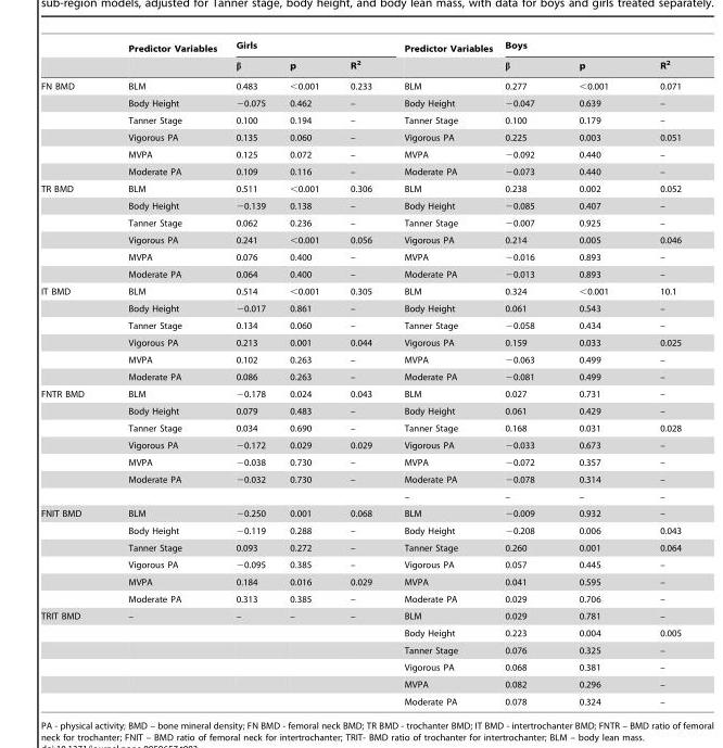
<table><thead><tr><td rowspan="2"></td><td rowspan="2">Predictor Variables</td><td colspan="3">Girls</td><td rowspan="2">Predictor Variables</td><td colspan="3">Boys</td></tr><tr><td>β</td><td>p</td><td>R<sup>2</sup></td><td>β</td><td>p</td><td>R<sup>2</sup></td></tr></thead><tbody><tr><td rowspan="6">FN BMD</td><td>BLM</td><td>0.483</td><td>&lt;0.001</td><td>0.233</td><td>BLM</td><td>0.277</td><td>&lt;0.001</td><td>0.071</td></tr><tr><td>Body Height</td><td>−0.075</td><td>0.462</td><td>–</td><td>Body Height</td><td>−0.047</td><td>0.639</td><td>–</td></tr><tr><td>Tanner Stage</td><td>0.100</td><td>0.194</td><td>–</td><td>Tanner Stage</td><td>0.100</td><td>0.179</td><td>–</td></tr><tr><td>Vigorous PA</td><td>0.135</td><td>0.060</td><td>–</td><td>Vigorous PA</td><td>0.225</td><td>0.003</td><td>0.051</td></tr><tr><td>MVPA</td><td>0.125</td><td>0.072</td><td>–</td><td>MVPA</td><td>−0.092</td><td>0.440</td><td>–</td></tr><tr><td>Moderate PA</td><td>0.109</td><td>0.116</td><td>–</td><td>Moderate PA</td><td>−0.073</td><td>0.440</td><td>–</td></tr><tr><td rowspan="6">TR BMD</td><td>BLM</td><td>0.511</td><td>&lt;0.001</td><td>0.306</td><td>BLM</td><td>0.238</td><td>0.002</td><td>0.052</td></tr><tr><td>Body Height</td><td>−0.139</td><td>0.138</td><td>–</td><td>Body Height</td><td>−0.085</td><td>0.407</td><td>–</td></tr><tr><td>Tanner Stage</td><td>0.062</td><td>0.236</td><td>–</td><td>Tanner Stage</td><td>−0.007</td><td>0.925</td><td>–</td></tr><tr><td>Vigorous PA</td><td>0.241</td><td>&lt;0.001</td><td>0.056</td><td>Vigorous PA</td><td>0.214</td><td>0.005</td><td>0.046</td></tr><tr><td>MVPA</td><td>0.076</td><td>0.400</td><td>–</td><td>MVPA</td><td>−0.016</td><td>0.893</td><td>–</td></tr><tr><td>Moderate PA</td><td>0.064</td><td>0.400</td><td>–</td><td>Moderate PA</td><td>−0.013</td><td>0.893</td><td>–</td></tr><tr><td rowspan="6">IT BMD</td><td>BLM</td><td>0.514</td><td>&lt;0.001</td><td>0.305</td><td>BLM</td><td>0.324</td><td>&lt;0.001</td><td>10.1</td></tr><tr><td>Body Height</td><td>−0.017</td><td>0.861</td><td>–</td><td>Body Height</td><td>0.061</td><td>0.543</td><td>–</td></tr><tr><td>Tanner Stage</td><td>0.134</td><td>0.060</td><td>–</td><td>Tanner Stage</td><td>−0.058</td><td>0.434</td><td>–</td></tr><tr><td>Vigorous PA</td><td>0.213</td><td>0.001</td><td>0.044</td><td>Vigorous PA</td><td>0.159</td><td>0.033</td><td>0.025</td></tr><tr><td>MVPA</td><td>0.102</td><td>0.263</td><td>–</td><td>MVPA</td><td>−0.063</td><td>0.499</td><td>–</td></tr><tr><td>Moderate PA</td><td>0.086</td><td>0.263</td><td>–</td><td>Moderate PA</td><td>−0.081</td><td>0.499</td><td>–</td></tr><tr><td rowspan="7">FNTR BMD</td><td>BLM</td><td>−0.178</td><td>0.024</td><td>0.043</td><td>BLM</td><td>0.027</td><td>0.731</td><td>–</td></tr><tr><td>Body Height</td><td>0.079</td><td>0.483</td><td>–</td><td>Body Height</td><td>0.061</td><td>0.429</td><td>–</td></tr><tr><td>Tanner Stage</td><td>0.034</td><td>0.690</td><td>–</td><td>Tanner Stage</td><td>0.168</td><td>0.031</td><td>0.028</td></tr><tr><td>Vigorous PA</td><td>−0.172</td><td>0.029</td><td>0.029</td><td>Vigorous PA</td><td>−0.033</td><td>0.673</td><td>–</td></tr><tr><td>MVPA</td><td>−0.038</td><td>0.730</td><td>–</td><td>MVPA</td><td>−0.072</td><td>0.357</td><td>–</td></tr><tr><td>Moderate PA</td><td>−0.032</td><td>0.730</td><td>–</td><td>Moderate PA</td><td>−0.078</td><td>0.314</td><td>–</td></tr><tr><td></td><td></td><td></td><td></td><td>–</td><td>–</td><td>–</td><td>–</td></tr><tr><td rowspan="6">FNIT BMD</td><td>BLM</td><td>−0.250</td><td>0.001</td><td>0.068</td><td>BLM</td><td>−0.009</td><td>0.932</td><td>–</td></tr><tr><td>Body Height</td><td>−0.119</td><td>0.288</td><td>–</td><td>Body Height</td><td>−0.208</td><td>0.006</td><td>0.043</td></tr><tr><td>Tanner Stage</td><td>0.093</td><td>0.272</td><td>–</td><td>Tanner Stage</td><td>0.260</td><td>0.001</td><td>0.064</td></tr><tr><td>Vigorous PA</td><td>−0.095</td><td>0.385</td><td>–</td><td>Vigorous PA</td><td>0.057</td><td>0.445</td><td>–</td></tr><tr><td>MVPA</td><td>0.184</td><td>0.016</td><td>0.029</td><td>MVPA</td><td>0.041</td><td>0.595</td><td>–</td></tr><tr><td>Moderate PA</td><td>0.313</td><td>0.385</td><td>–</td><td>Moderate PA</td><td>0.029</td><td>0.706</td><td>–</td></tr><tr><td rowspan="6">TRIT BMD</td><td>–</td><td>–</td><td>–</td><td>–</td><td>BLM</td><td>0.029</td><td>0.781</td><td>–</td></tr><tr><td></td><td></td><td></td><td></td><td>Body Height</td><td>0.223</td><td>0.004</td><td>0.005</td></tr><tr><td></td><td></td><td></td><td></td><td>Tanner Stage</td><td>0.076</td><td>0.325</td><td>–</td></tr><tr><td></td><td></td><td></td><td></td><td>Vigorous PA</td><td>0.068</td><td>0.381</td><td>–</td></tr><tr><td></td><td></td><td></td><td></td><td>MVPA</td><td>0.082</td><td>0.296</td><td>–</td></tr><tr><td></td><td></td><td></td><td></td><td>Moderate PA</td><td>0.078</td><td>0.324</td><td>–</td></tr></tbody></table>